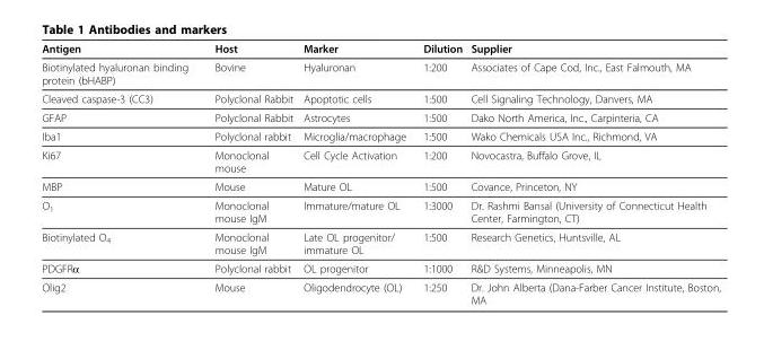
<table><thead><tr><td>Antigen</td><td>Host</td><td>Marker</td><td>Dilution</td><td>Supplier</td></tr></thead><tbody><tr><td>Biotinylated hyaluronan binding protein (bHABP)</td><td>Bovine</td><td>Hyaluronan</td><td>1:200</td><td>Associates of Cape Cod, Inc., East Falmouth, MA</td></tr><tr><td>Cleaved caspase-3 (CC3)</td><td>Polyclonal Rabbit</td><td>Apoptotic cells</td><td>1:500</td><td>Cell Signaling Technology, Danvers, MA</td></tr><tr><td>GFAP</td><td>Polyclonal Rabbit</td><td>Astrocytes</td><td>1:500</td><td>Dako North America, Inc., Carpinteria, CA</td></tr><tr><td>Iba1</td><td>Polyclonal rabbit</td><td>Microglia/macrophage</td><td>1:500</td><td>Wako Chemicals USA Inc., Richmond, VA</td></tr><tr><td>Ki67</td><td>Monoclonal mouse</td><td>Cell Cycle Activation</td><td>1:200</td><td>Novocastra, Buffalo Grove, IL</td></tr><tr><td>MBP</td><td>Mouse</td><td>Mature OL</td><td>1:500</td><td>Covance, Princeton, NY</td></tr><tr><td>O<sub>1</sub></td><td>Monoclonal mouse IgM</td><td>Immature/mature OL</td><td>1:3000</td><td>Dr. Rashmi Bansal (University of Connecticut Health Center, Farmington, CT)</td></tr><tr><td>Biotinylated O<sub>4</sub></td><td>Monoclonal mouse IgM</td><td>Late OL progenitor/ immature OL</td><td>1:500</td><td>Research Genetics, Huntsville, AL</td></tr><tr><td>PDGFRα</td><td>Polyclonal rabbit</td><td>OL progenitor</td><td>1:1000</td><td>R&amp;D Systems, Minneapolis, MN</td></tr><tr><td>Olig2</td><td>Mouse</td><td>Oligodendrocyte (OL)</td><td>1:250</td><td>Dr. John Alberta (Dana-Farber Cancer Institute, Boston, MA</td></tr></tbody></table>